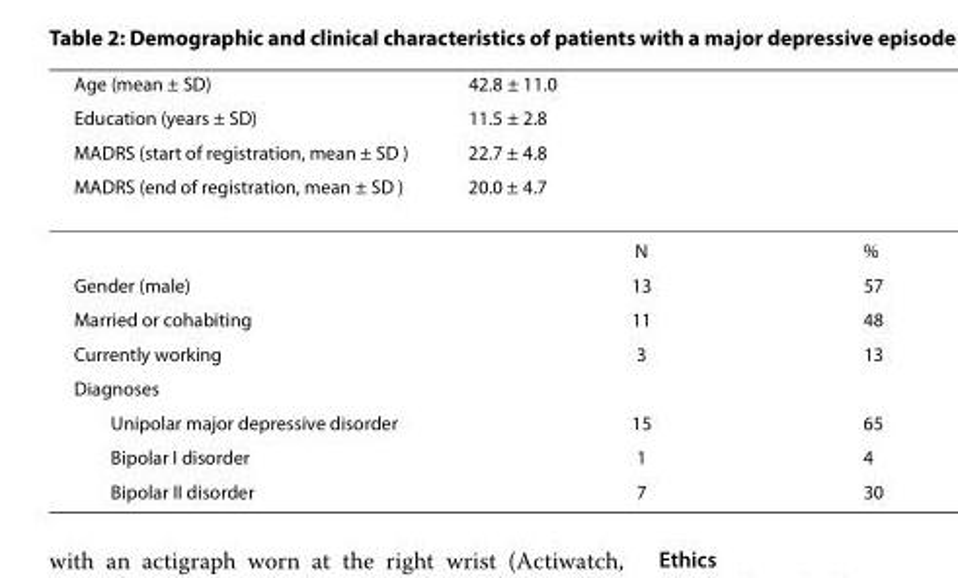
<table><thead><tr><td rowspan="5">Age (mean ± SD) Education (years ± SD) MADRS (start of registration, mean ± SD ) MADRS (end of registration, mean ± SD )</td><td rowspan="4" colspan="2">42.8 ± 11.0 11.5 ± 2.8 22.7 ± 4.8 20.0 ± 4.7</td></tr><tr></tr><tr></tr><tr></tr><tr><td>N</td><td>%</td></tr></thead><tbody><tr><td>Gender (male)</td><td>13</td><td>57</td></tr><tr><td>Married or cohabiting</td><td>11</td><td>48</td></tr><tr><td>Currently working</td><td>3</td><td>13</td></tr><tr><td colspan="3">Diagnoses</td></tr><tr><td>Unipolar major depressive disorder</td><td>15</td><td>65</td></tr><tr><td>Bipolar I disorder</td><td>1</td><td>4</td></tr><tr><td>Bipolar II disorder</td><td>7</td><td>30</td></tr></tbody></table>